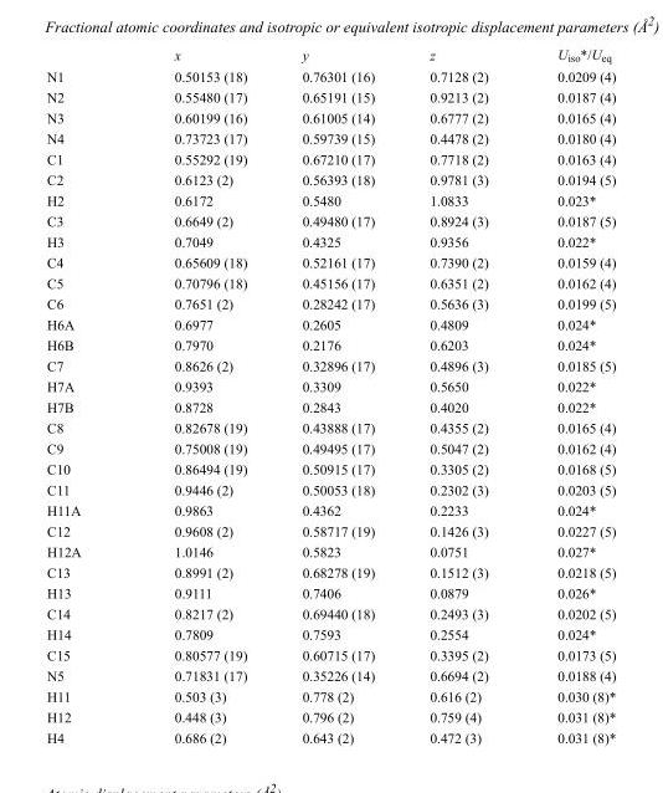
<table><thead><tr><td></td><td>x</td><td>y</td><td>z</td><td>U<sub>iso</sub>*/U<sub>eq</sub></td></tr></thead><tbody><tr><td>N1</td><td>0.50153 (18)</td><td>0.76301 (16)</td><td>0.7128 (2)</td><td>0.0209 (4)</td></tr><tr><td>N2</td><td>0.55480 (17)</td><td>0.65191 (15)</td><td>0.9213 (2)</td><td>0.0187 (4)</td></tr><tr><td>N3</td><td>0.60199 (16)</td><td>0.61005 (14)</td><td>0.6777 (2)</td><td>0.0165 (4)</td></tr><tr><td>N4</td><td>0.73723 (17)</td><td>0.59739 (15)</td><td>0.4478 (2)</td><td>0.0180 (4)</td></tr><tr><td>C1</td><td>0.55292 (19)</td><td>0.67210 (17)</td><td>0.7718 (2)</td><td>0.0163 (4)</td></tr><tr><td>C2</td><td>0.6123 (2)</td><td>0.56393 (18)</td><td>0.9781 (3)</td><td>0.0194 (5)</td></tr><tr><td>H2</td><td>0.6172</td><td>0.5480</td><td>1.0833</td><td>0.023*</td></tr><tr><td>C3</td><td>0.6649 (2)</td><td>0.49480 (17)</td><td>0.8924 (3)</td><td>0.0187 (5)</td></tr><tr><td>H3</td><td>0.7049</td><td>0.4325</td><td>0.9356</td><td>0.022*</td></tr><tr><td>C4</td><td>0.65609 (18)</td><td>0.52161 (17)</td><td>0.7390 (2)</td><td>0.0159 (4)</td></tr><tr><td>C5</td><td>0.70796 (18)</td><td>0.45156 (17)</td><td>0.6351 (2)</td><td>0.0162 (4)</td></tr><tr><td>C6</td><td>0.7651 (2)</td><td>0.28242 (17)</td><td>0.5636 (3)</td><td>0.0199 (5)</td></tr><tr><td>H6A</td><td>0.6977</td><td>0.2605</td><td>0.4809</td><td>0.024*</td></tr><tr><td>H6B</td><td>0.7970</td><td>0.2176</td><td>0.6203</td><td>0.024*</td></tr><tr><td>C7</td><td>0.8626 (2)</td><td>0.32896 (17)</td><td>0.4896 (3)</td><td>0.0185 (5)</td></tr><tr><td>H7A</td><td>0.9393</td><td>0.3309</td><td>0.5650</td><td>0.022*</td></tr><tr><td>H7B</td><td>0.8728</td><td>0.2843</td><td>0.4020</td><td>0.022*</td></tr><tr><td>C8</td><td>0.82678 (19)</td><td>0.43888 (17)</td><td>0.4355 (2)</td><td>0.0165 (4)</td></tr><tr><td>C9</td><td>0.75008 (19)</td><td>0.49495 (17)</td><td>0.5047 (2)</td><td>0.0162 (4)</td></tr><tr><td>C10</td><td>0.86494 (19)</td><td>0.50915 (17)</td><td>0.3305 (2)</td><td>0.0168 (5)</td></tr><tr><td>C11</td><td>0.9446 (2)</td><td>0.50053 (18)</td><td>0.2302 (3)</td><td>0.0203 (5)</td></tr><tr><td>H11A</td><td>0.9863</td><td>0.4362</td><td>0.2233</td><td>0.024*</td></tr><tr><td>C12</td><td>0.9608 (2)</td><td>0.58717 (19)</td><td>0.1426 (3)</td><td>0.0227 (5)</td></tr><tr><td>H12A</td><td>1.0146</td><td>0.5823</td><td>0.0751</td><td>0.027*</td></tr><tr><td>C13</td><td>0.8991 (2)</td><td>0.68278 (19)</td><td>0.1512 (3)</td><td>0.0218 (5)</td></tr><tr><td>H13</td><td>0.9111</td><td>0.7406</td><td>0.0879</td><td>0.026*</td></tr><tr><td>C14</td><td>0.8217 (2)</td><td>0.69440 (18)</td><td>0.2493 (3)</td><td>0.0202 (5)</td></tr><tr><td>H14</td><td>0.7809</td><td>0.7593</td><td>0.2554</td><td>0.024*</td></tr><tr><td>C15</td><td>0.80577 (19)</td><td>0.60715 (17)</td><td>0.3395 (2)</td><td>0.0173 (5)</td></tr><tr><td>N5</td><td>0.71831 (17)</td><td>0.35226 (14)</td><td>0.6694 (2)</td><td>0.0188 (4)</td></tr><tr><td>H11</td><td>0.503 (3)</td><td>0.778 (2)</td><td>0.616 (2)</td><td>0.030 (8)*</td></tr><tr><td>H12</td><td>0.448 (3)</td><td>0.796 (2)</td><td>0.759 (4)</td><td>0.031 (8)*</td></tr><tr><td>H4</td><td>0.686 (2)</td><td>0.643 (2)</td><td>0.472 (3)</td><td>0.031 (8)*</td></tr></tbody></table>